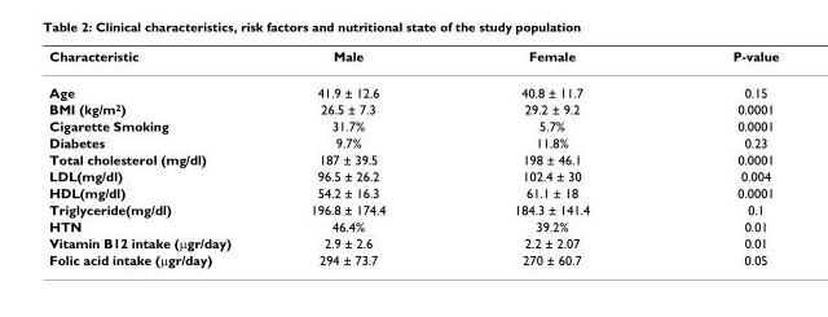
<table><thead><tr><td>Characteristic</td><td>Male</td><td>Female</td><td>P-value</td></tr></thead><tbody><tr><td>Age</td><td>41.9 ± 12.6</td><td>40.8 ± 11.7</td><td>0.15</td></tr><tr><td>BMI (kg/m2)</td><td>26.5 ± 7.3</td><td>29.2 ± 9.2</td><td>0.0001</td></tr><tr><td>Cigarette Smoking</td><td>31.7%</td><td>5.7%</td><td>0.0001</td></tr><tr><td>Diabetes</td><td>9.7%</td><td>11.8%</td><td>0.23</td></tr><tr><td>Total cholesterol (mg/dl)</td><td>187 ± 39.5</td><td>198 ± 46.1</td><td>0.0001</td></tr><tr><td>LDL(mg/dl)</td><td>96.5 ± 26.2</td><td>102.4 ± 30</td><td>0.004</td></tr><tr><td>HDL(mg/dl)</td><td>54.2 ± 16.3</td><td>61.1 ± 18</td><td>0.0001</td></tr><tr><td>Triglyceride(mg/dl)</td><td>196.8 ± 174.4</td><td>184.3 ± 141.4</td><td>0.1</td></tr><tr><td>HTN</td><td>46.4%</td><td>39.2%</td><td>0.01</td></tr><tr><td>Vitamin B12 intake (µgr/day)</td><td>2.9 ± 2.6</td><td>2.2 ± 2.07</td><td>0.01</td></tr><tr><td>Folic acid intake (µgr/day)</td><td>294 ± 73.7</td><td>270 ± 60.7</td><td>0.05</td></tr></tbody></table>